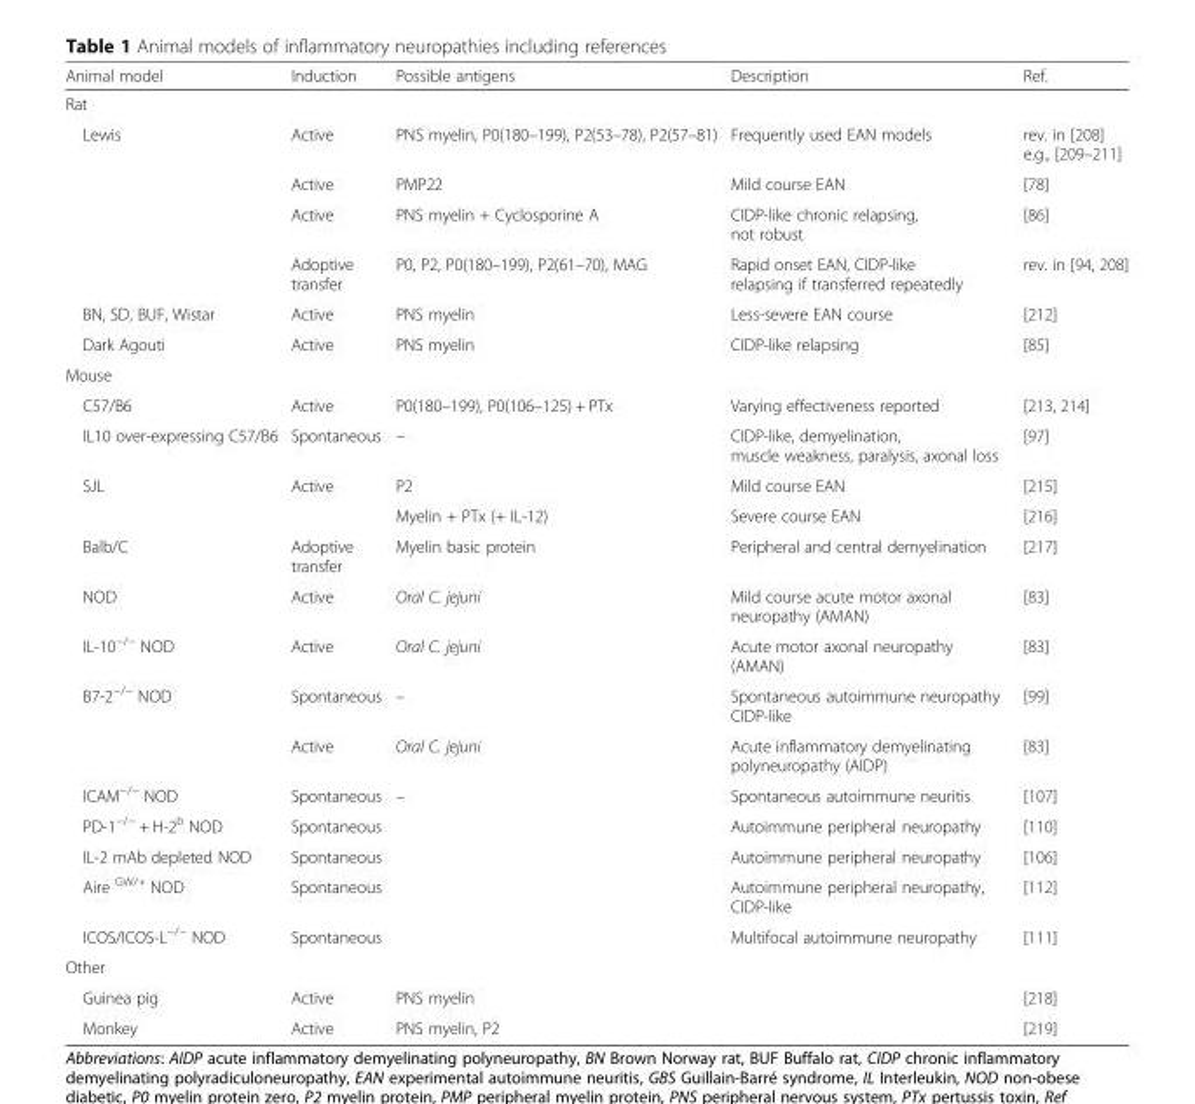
<table><thead><tr><td>Animal model</td><td>Induction</td><td>Possible antigens</td><td>Description</td><td>Ref.</td></tr></thead><tbody><tr><td colspan="5">Rat</td></tr><tr><td rowspan="4">Lewis</td><td>Active</td><td>PNS myelin, P0(180–199), P2(53–78), P2(57–81)</td><td>Frequently used EAN models</td><td>rev. in [208] e.g., [209–211]</td></tr><tr><td>Active</td><td>PMP22</td><td>Mild course EAN</td><td>[78]</td></tr><tr><td>Active</td><td>PNS myelin + Cyclosporine A</td><td>CIDP-like chronic relapsing, not robust</td><td>[86]</td></tr><tr><td>Adoptive transfer</td><td>P0, P2, P0(180–199), P2(61–70), MAG</td><td>Rapid onset EAN, CIDP-like relapsing if transferred repeatedly</td><td>rev. in [94, 208]</td></tr><tr><td>BN, SD, BUF, Wistar</td><td>Active</td><td>PNS myelin</td><td>Less-severe EAN course</td><td>[212]</td></tr><tr><td>Dark Agouti</td><td>Active</td><td>PNS myelin</td><td>CIDP-like relapsing</td><td>[85]</td></tr><tr><td colspan="5">Mouse</td></tr><tr><td>C57/B6</td><td>Active</td><td>P0(180–199), P0(106–125) + PTx</td><td>Varying effectiveness reported</td><td>[213, 214]</td></tr><tr><td>IL10 over-expressing C57/B6</td><td>Spontaneous</td><td>–</td><td>CIDP-like, demyelination, muscle weakness, paralysis, axonal loss</td><td>[97]</td></tr><tr><td rowspan="2">SJL</td><td rowspan="2">Active</td><td>P2</td><td>Mild course EAN</td><td>[215]</td></tr><tr><td>Myelin + PTx (+ IL-12)</td><td>Severe course EAN</td><td>[216]</td></tr><tr><td>Balb/C</td><td>Adoptive transfer</td><td>Myelin basic protein</td><td>Peripheral and central demyelination</td><td>[217]</td></tr><tr><td>NOD</td><td>Active</td><td>Oral C. jejuni</td><td>Mild course acute motor axonal neuropathy (AMAN)</td><td>[83]</td></tr><tr><td>IL-10<sup>−/−</sup> NOD</td><td>Active</td><td>Oral C. jejuni</td><td>Acute motor axonal neuropathy (AMAN)</td><td>[83]</td></tr><tr><td rowspan="2">B7-2<sup>−/−</sup> NOD</td><td>Spontaneous</td><td>–</td><td>Spontaneous autoimmune neuropathy CIDP-like</td><td>[99]</td></tr><tr><td>Active</td><td>Oral C. jejuni</td><td>Acute inflammatory demyelinating polyneuropathy (AIDP)</td><td>[83]</td></tr><tr><td>ICAM<sup>−/−</sup> NOD</td><td>Spontaneous</td><td>–</td><td>Spontaneous autoimmune neuritis</td><td>[107]</td></tr><tr><td>PD-1<sup>−/−</sup> + H-2<sup>b</sup> NOD</td><td>Spontaneous</td><td></td><td>Autoimmune peripheral neuropathy</td><td>[110]</td></tr><tr><td>IL-2 mAb depleted NOD</td><td>Spontaneous</td><td></td><td>Autoimmune peripheral neuropathy</td><td>[106]</td></tr><tr><td>Aire <sup>GW/+</sup> NOD</td><td>Spontaneous</td><td></td><td>Autoimmune peripheral neuropathy, CIDP-like</td><td>[112]</td></tr><tr><td>ICOS/ICOS-L<sup>−/−</sup> NOD</td><td>Spontaneous</td><td></td><td>Multifocal autoimmune neuropathy</td><td>[111]</td></tr><tr><td colspan="5">Other</td></tr><tr><td>Guinea pig</td><td>Active</td><td>PNS myelin</td><td></td><td>[218]</td></tr><tr><td>Monkey</td><td>Active</td><td>PNS myelin, P2</td><td></td><td>[219]</td></tr></tbody></table>